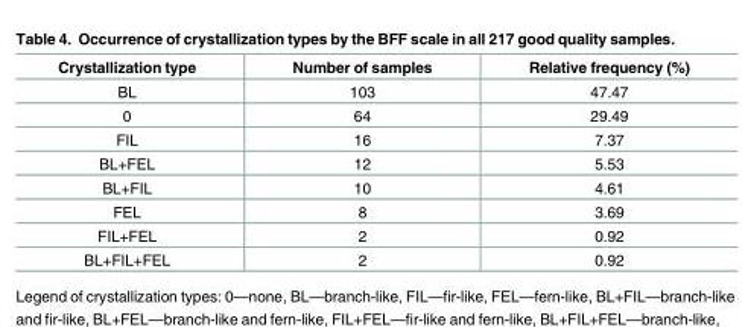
<table><thead><tr><td>Crystallization type</td><td>Number of samples</td><td>Relative frequency (%)</td></tr></thead><tbody><tr><td>BL</td><td>103</td><td>47.47</td></tr><tr><td>0</td><td>64</td><td>29.49</td></tr><tr><td>FIL</td><td>16</td><td>7.37</td></tr><tr><td>BL+FEL</td><td>12</td><td>5.53</td></tr><tr><td>BL+FIL</td><td>10</td><td>4.61</td></tr><tr><td>FEL</td><td>8</td><td>3.69</td></tr><tr><td>FIL+FEL</td><td>2</td><td>0.92</td></tr><tr><td>BL+FIL+FEL</td><td>2</td><td>0.92</td></tr></tbody></table>